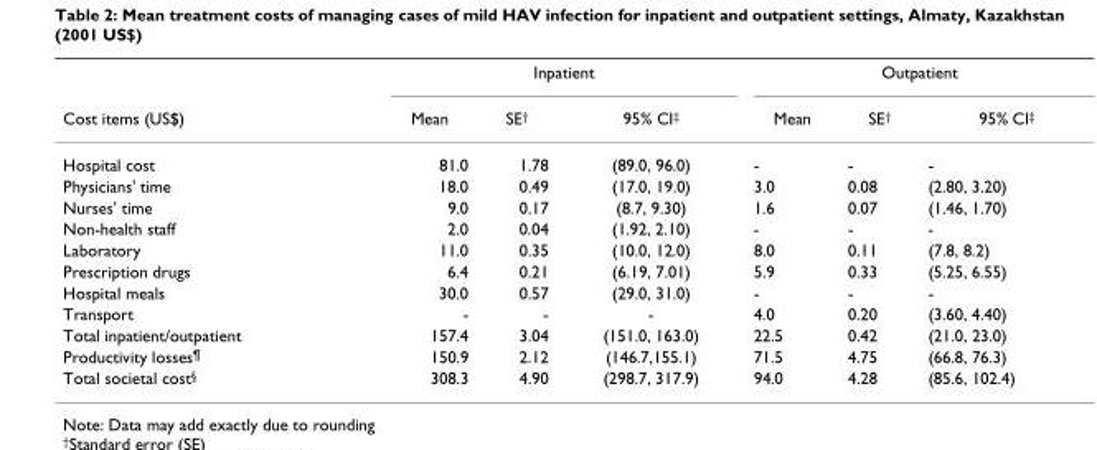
<table><thead><tr><td rowspan="2">Cost items (US$)</td><td colspan="3">Inpatient</td><td colspan="3">Outpatient</td></tr><tr><td>Mean</td><td>SE<sup>†</sup></td><td>95% CI<sup>‡</sup></td><td>Mean</td><td>SE<sup>†</sup></td><td>95% CI<sup>‡</sup></td></tr></thead><tbody><tr><td>Hospital cost</td><td>81.0</td><td>1.78</td><td>(89.0, 96.0)</td><td>-</td><td>-</td><td>-</td></tr><tr><td>Physicians&#x27; time</td><td>18.0</td><td>0.49</td><td>(17.0, 19.0)</td><td>3.0</td><td>0.08</td><td>(2.80, 3.20)</td></tr><tr><td>Nurses&#x27; time</td><td>9.0</td><td>0.17</td><td>(8.7, 9.30)</td><td>1.6</td><td>0.07</td><td>(1.46, 1.70)</td></tr><tr><td>Non-health staff</td><td>2.0</td><td>0.04</td><td>(1.92, 2.10)</td><td>-</td><td>-</td><td>-</td></tr><tr><td>Laboratory</td><td>11.0</td><td>0.35</td><td>(10.0, 12.0)</td><td>8.0</td><td>0.11</td><td>(7.8, 8.2)</td></tr><tr><td>Prescription drugs</td><td>6.4</td><td>0.21</td><td>(6.19, 7.01)</td><td>5.9</td><td>0.33</td><td>(5.25, 6.55)</td></tr><tr><td>Hospital meals</td><td>30.0</td><td>0.57</td><td>(29.0, 31.0)</td><td>-</td><td>-</td><td>-</td></tr><tr><td>Transport</td><td>-</td><td>-</td><td>-</td><td>4.0</td><td>0.20</td><td>(3.60, 4.40)</td></tr><tr><td>Total inpatient/outpatient</td><td>157.4</td><td>3.04</td><td>(151.0, 163.0)</td><td>22.5</td><td>0.42</td><td>(21.0, 23.0)</td></tr><tr><td>Productivity losses<sup>¶</sup></td><td>150.9</td><td>2.12</td><td>(146.7,155.1)</td><td>71.5</td><td>4.75</td><td>(66.8, 76.3)</td></tr><tr><td>Total societal cost<sup>§</sup></td><td>308.3</td><td>4.90</td><td>(298.7, 317.9)</td><td>94.0</td><td>4.28</td><td>(85.6, 102.4)</td></tr></tbody></table>